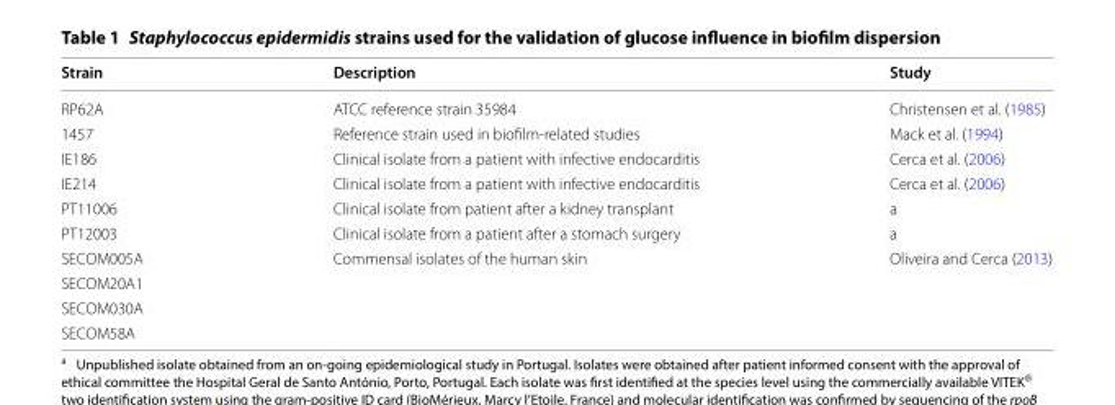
<table><thead><tr><td>Strain</td><td>Description</td><td>Study</td></tr></thead><tbody><tr><td>RP62A</td><td>ATCC reference strain 35984</td><td>Christensen et al. (1985)</td></tr><tr><td>1457</td><td>Reference strain used in biofilm-related studies</td><td>Mack et al. (1994)</td></tr><tr><td>IE186</td><td>Clinical isolate from a patient with infective endocarditis</td><td>Cerca et al. (2006)</td></tr><tr><td>IE214</td><td>Clinical isolate from a patient with infective endocarditis</td><td>Cerca et al. (2006)</td></tr><tr><td>PT11006</td><td>Clinical isolate from patient after a kidney transplant</td><td>a</td></tr><tr><td>PT12003</td><td>Clinical isolate from a patient after a stomach surgery</td><td>a</td></tr><tr><td>SECOM005A</td><td rowspan="4">Commensal isolates of the human skin</td><td rowspan="4">Oliveira and Cerca (2013)</td></tr><tr><td>SECOM20A1</td></tr><tr><td>SECOM030A</td></tr><tr><td>SECOM58A</td></tr></tbody></table>